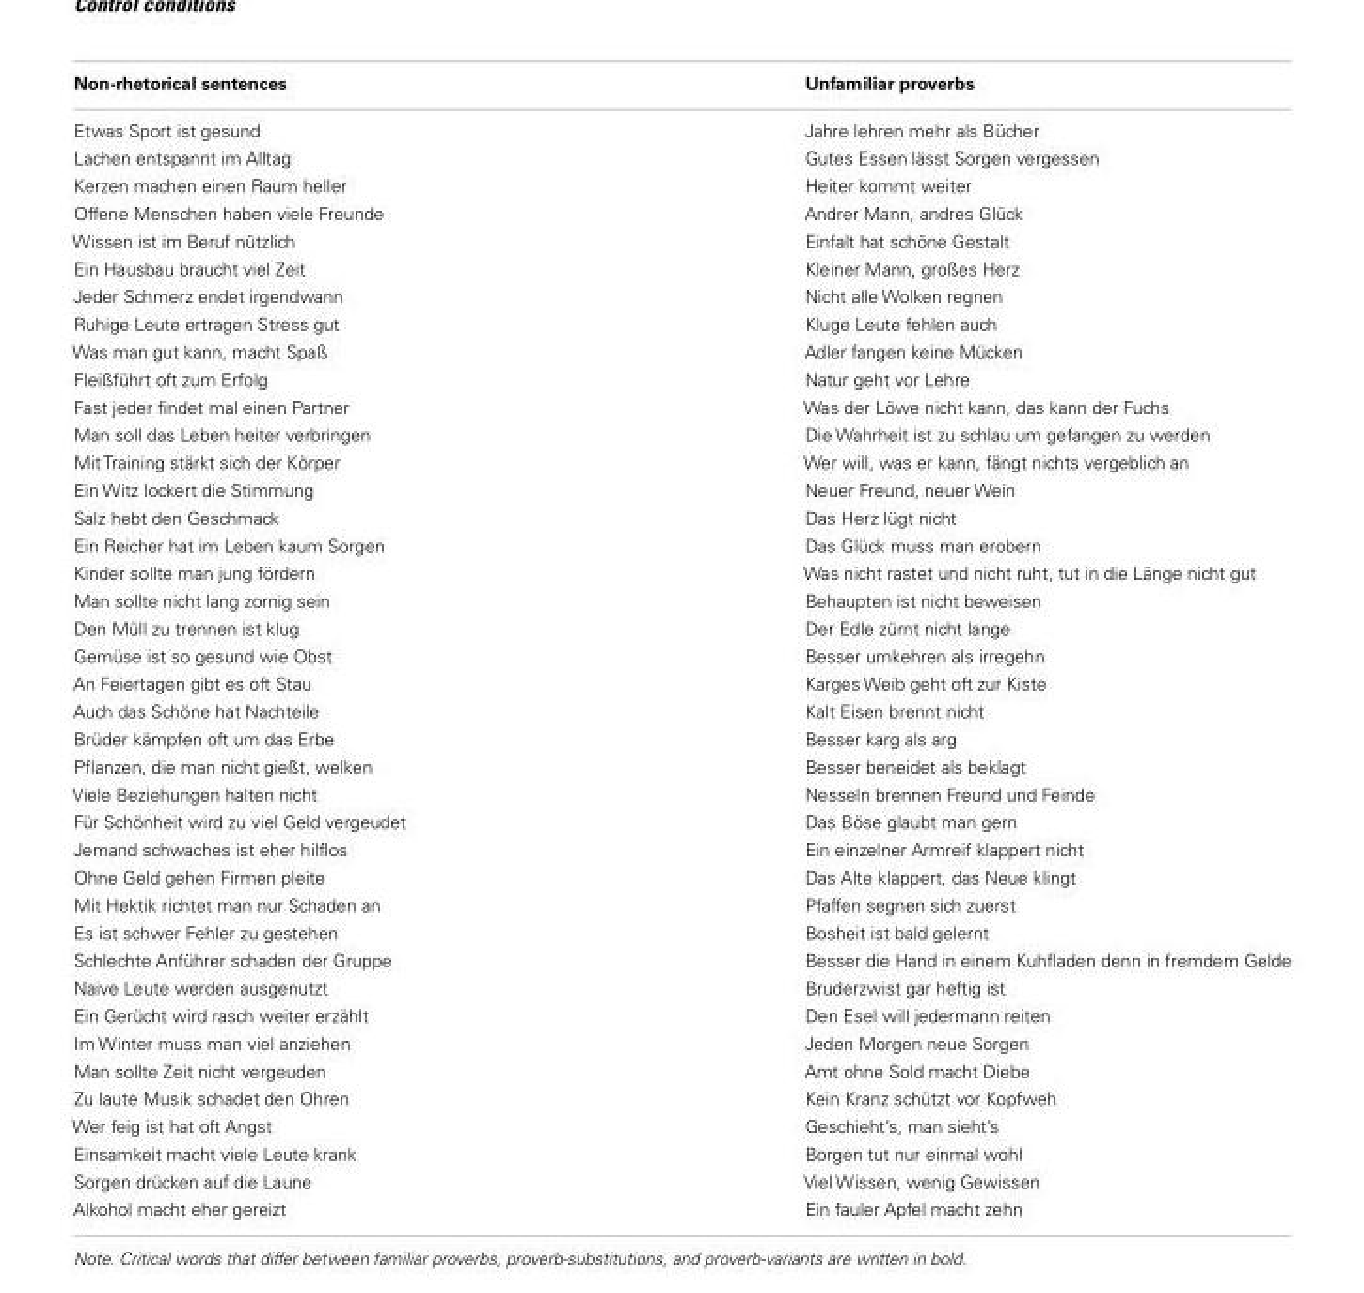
<table><thead><tr><td>Non-rhetorical sentences</td><td>Unfamiliar proverbs</td></tr></thead><tbody><tr><td>Etwas Sport ist gesund</td><td>Jahre lehren mehr als Bücher</td></tr><tr><td>Lachen entspannt im Alltag</td><td>Gutes Essen lässt Sorgen vergessen</td></tr><tr><td>Kerzen machen einen Raum heller</td><td>Heiter kommt weiter</td></tr><tr><td>Offene Menschen haben viele Freunde</td><td>Andrer Mann, andres Glück</td></tr><tr><td>Wissen ist im Beruf nützlich</td><td>Einfalt hat schöne Gestalt</td></tr><tr><td>Ein Hausbau braucht viel Zeit</td><td>Kleiner Mann, großes Herz</td></tr><tr><td>Jeder Schmerz endet irgendwann</td><td>Nicht alle Wolken regnen</td></tr><tr><td>Ruhige Leute ertragen Stress gut</td><td>Kluge Leute fehlen auch</td></tr><tr><td>Was man gut kann, macht Spaß</td><td>Adler fangen keine Mücken</td></tr><tr><td>Fleißführt oft zum Erfolg</td><td>Natur geht vor Lehre</td></tr><tr><td>Fast jeder findet mal einen Partner</td><td>Was der Löwe nicht kann, das kann der Fuchs</td></tr><tr><td>Man soll das Leben heiter verbringen</td><td>Die Wahrheit ist zu schlau um gefangen zu werden</td></tr><tr><td>Mit Training stärkt sich der Körper</td><td>Wer will, was er kann, fängt nichts vergeblich an</td></tr><tr><td>Ein Witz lockert die Stimmung</td><td>Neuer Freund, neuer Wein</td></tr><tr><td>Salz hebt den Geschmack</td><td>Das Herz lügt nicht</td></tr><tr><td>Ein Reicher hat im Leben kaum Sorgen</td><td>Das Glück muss man erobern</td></tr><tr><td>Kinder sollte man jung fördern</td><td>Was nicht rastet und nicht ruht, tut in die Länge nicht gut</td></tr><tr><td>Man sollte nicht lang zornig sein</td><td>Behaupten ist nicht beweisen</td></tr><tr><td>Den Müll zu trennen ist klug</td><td>Der Edle zürnt nicht lange</td></tr><tr><td>Gemüse ist so gesund wie Obst</td><td>Besser umkehren als irregehn</td></tr><tr><td>An Feiertagen gibt es oft Stau</td><td>Karges Weib geht oft zur Kiste</td></tr><tr><td>Auch das Schöne hat Nachteile</td><td>Kalt Eisen brennt nicht</td></tr><tr><td>Brüder kämpfen oft um das Erbe</td><td>Besser karg als arg</td></tr><tr><td>Pflanzen, die man nicht gießt, welken</td><td>Besser beneidet als beklagt</td></tr><tr><td>Viele Beziehungen halten nicht</td><td>Nesseln brennen Freund und Feinde</td></tr><tr><td>Für Schönheit wird zu viel Geld vergeudet</td><td>Das Böse glaubt man gern</td></tr><tr><td>Jemand schwaches ist eher hilflos</td><td>Ein einzelner Armreif klappert nicht</td></tr><tr><td>Ohne Geld gehen Firmen pleite</td><td>Das Alte klappert, das Neue klingt</td></tr><tr><td>Mit Hektik richtet man nur Schaden an</td><td>Pfaffen segnen sich zuerst</td></tr><tr><td>Es ist schwer Fehler zu gestehen</td><td>Bosheit ist bald gelernt</td></tr><tr><td>Schlechte Anführer schaden der Gruppe</td><td>Besser die Hand in einem Kuhfladen denn in fremdem Gelde</td></tr><tr><td>Naive Leute werden ausgenutzt</td><td>Bruderzwist gar heftig ist</td></tr><tr><td>Ein Gerücht wird rasch weiter erzählt</td><td>Den Esel will jedermann reiten</td></tr><tr><td>Im Winter muss man viel anziehen</td><td>Jeden Morgen neue Sorgen</td></tr><tr><td>Man sollte Zeit nicht vergeuden</td><td>Amt ohne Sold macht Diebe</td></tr><tr><td>Zu laute Musik schadet den Ohren</td><td>Kein Kranz schützt vor Kopfweh</td></tr><tr><td>Wer feig ist hat oft Angst</td><td>Geschieht’s, man sieht’s</td></tr><tr><td>Einsamkeit macht viele Leute krank</td><td>Borgen tut nur einmal wohl</td></tr><tr><td>Sorgen drücken auf die Laune</td><td>Viel Wissen, wenig Gewissen</td></tr><tr><td>Alkohol macht eher gereizt</td><td>Ein fauler Apfel macht zehn</td></tr></tbody></table>